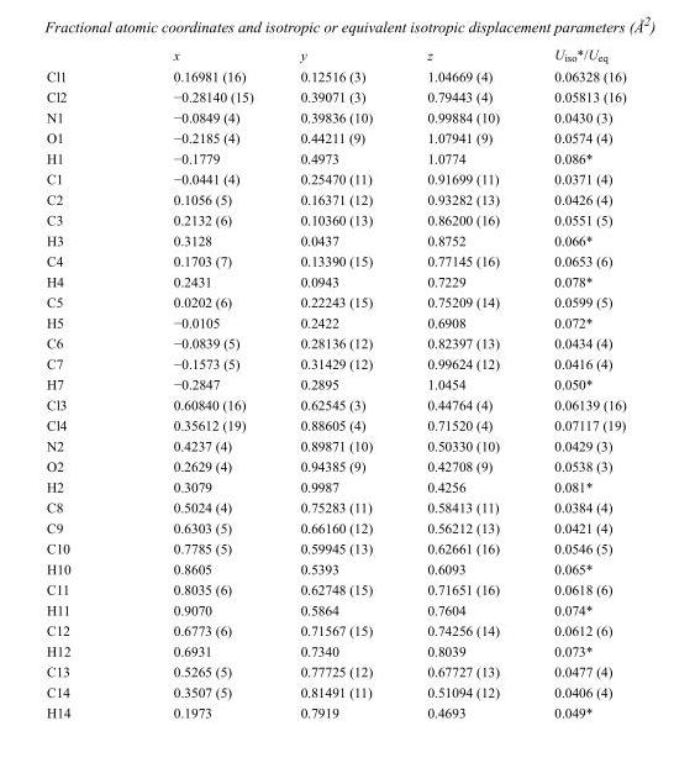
<table><thead><tr><td></td><td>x</td><td>y</td><td>z</td><td>U<sub>iso</sub>*/U<sub>eq</sub></td></tr></thead><tbody><tr><td>Cl1</td><td>0.16981 (16)</td><td>0.12516 (3)</td><td>1.04669 (4)</td><td>0.06328 (16)</td></tr><tr><td>Cl2</td><td>−0.28140 (15)</td><td>0.39071 (3)</td><td>0.79443 (4)</td><td>0.05813 (16)</td></tr><tr><td>N1</td><td>−0.0849 (4)</td><td>0.39836 (10)</td><td>0.99884 (10)</td><td>0.0430 (3)</td></tr><tr><td>O1</td><td>−0.2185 (4)</td><td>0.44211 (9)</td><td>1.07941 (9)</td><td>0.0574 (4)</td></tr><tr><td>H1</td><td>−0.1779</td><td>0.4973</td><td>1.0774</td><td>0.086*</td></tr><tr><td>C1</td><td>−0.0441 (4)</td><td>0.25470 (11)</td><td>0.91699 (11)</td><td>0.0371 (4)</td></tr><tr><td>C2</td><td>0.1056 (5)</td><td>0.16371 (12)</td><td>0.93282 (13)</td><td>0.0426 (4)</td></tr><tr><td>C3</td><td>0.2132 (6)</td><td>0.10360 (13)</td><td>0.86200 (16)</td><td>0.0551 (5)</td></tr><tr><td>H3</td><td>0.3128</td><td>0.0437</td><td>0.8752</td><td>0.066*</td></tr><tr><td>C4</td><td>0.1703 (7)</td><td>0.13390 (15)</td><td>0.77145 (16)</td><td>0.0653 (6)</td></tr><tr><td>H4</td><td>0.2431</td><td>0.0943</td><td>0.7229</td><td>0.078*</td></tr><tr><td>C5</td><td>0.0202 (6)</td><td>0.22243 (15)</td><td>0.75209 (14)</td><td>0.0599 (5)</td></tr><tr><td>H5</td><td>−0.0105</td><td>0.2422</td><td>0.6908</td><td>0.072*</td></tr><tr><td>C6</td><td>−0.0839 (5)</td><td>0.28136 (12)</td><td>0.82397 (13)</td><td>0.0434 (4)</td></tr><tr><td>C7</td><td>−0.1573 (5)</td><td>0.31429 (12)</td><td>0.99624 (12)</td><td>0.0416 (4)</td></tr><tr><td>H7</td><td>−0.2847</td><td>0.2895</td><td>1.0454</td><td>0.050*</td></tr><tr><td>Cl3</td><td>0.60840 (16)</td><td>0.62545 (3)</td><td>0.44764 (4)</td><td>0.06139 (16)</td></tr><tr><td>Cl4</td><td>0.35612 (19)</td><td>0.88605 (4)</td><td>0.71520 (4)</td><td>0.07117 (19)</td></tr><tr><td>N2</td><td>0.4237 (4)</td><td>0.89871 (10)</td><td>0.50330 (10)</td><td>0.0429 (3)</td></tr><tr><td>O2</td><td>0.2629 (4)</td><td>0.94385 (9)</td><td>0.42708 (9)</td><td>0.0538 (3)</td></tr><tr><td>H2</td><td>0.3079</td><td>0.9987</td><td>0.4256</td><td>0.081*</td></tr><tr><td>C8</td><td>0.5024 (4)</td><td>0.75283 (11)</td><td>0.58413 (11)</td><td>0.0384 (4)</td></tr><tr><td>C9</td><td>0.6303 (5)</td><td>0.66160 (12)</td><td>0.56212 (13)</td><td>0.0421 (4)</td></tr><tr><td>C10</td><td>0.7785 (5)</td><td>0.59945 (13)</td><td>0.62661 (16)</td><td>0.0546 (5)</td></tr><tr><td>H10</td><td>0.8605</td><td>0.5393</td><td>0.6093</td><td>0.065*</td></tr><tr><td>C11</td><td>0.8035 (6)</td><td>0.62748 (15)</td><td>0.71651 (16)</td><td>0.0618 (6)</td></tr><tr><td>H11</td><td>0.9070</td><td>0.5864</td><td>0.7604</td><td>0.074*</td></tr><tr><td>C12</td><td>0.6773 (6)</td><td>0.71567 (15)</td><td>0.74256 (14)</td><td>0.0612 (6)</td></tr><tr><td>H12</td><td>0.6931</td><td>0.7340</td><td>0.8039</td><td>0.073*</td></tr><tr><td>C13</td><td>0.5265 (5)</td><td>0.77725 (12)</td><td>0.67727 (13)</td><td>0.0477 (4)</td></tr><tr><td>C14</td><td>0.3507 (5)</td><td>0.81491 (11)</td><td>0.51094 (12)</td><td>0.0406 (4)</td></tr><tr><td>H14</td><td>0.1973</td><td>0.7919</td><td>0.4693</td><td>0.049*</td></tr></tbody></table>